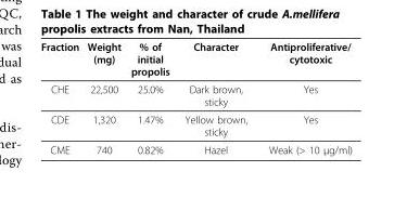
<table><thead><tr><td>Fraction</td><td>Weight (mg)</td><td>% of initial propolis</td><td>Character</td><td>Antiproliferative/ cytotoxic</td></tr></thead><tbody><tr><td>CHE</td><td>22,500</td><td>25.0%</td><td>Dark brown, sticky</td><td>Yes</td></tr><tr><td>CDE</td><td>1,320</td><td>1.47%</td><td>Yellow brown, sticky</td><td>Yes</td></tr><tr><td>CME</td><td>740</td><td>0.82%</td><td>Hazel</td><td>Weak (&gt; 10 μg/ml)</td></tr></tbody></table>